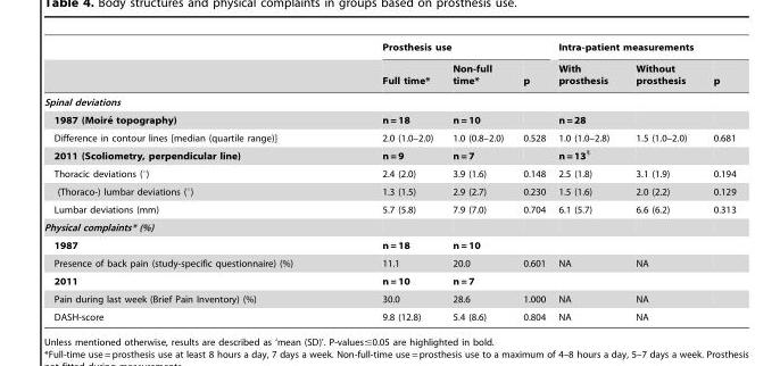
<table><thead><tr><td rowspan="2"></td><td colspan="3">Prosthesis use</td><td colspan="3">Intra-patient measurements</td></tr><tr><td>Full time*</td><td>Non-full time*</td><td>p</td><td>With prosthesis</td><td>Without prosthesis</td><td>p</td></tr></thead><tbody><tr><td colspan="7">Spinal deviations</td></tr><tr><td>1987 (Moire´ topography)</td><td>n = 18</td><td>n = 10</td><td></td><td>n = 28</td><td></td><td></td></tr><tr><td>Difference in contour lines [median (quartile range)]</td><td>2.0 (1.0–2.0)</td><td>1.0 (0.8–2.0)</td><td>0.528</td><td>1.0 (1.0–2.8)</td><td>1.5 (1.0–2.0)</td><td>0.681</td></tr><tr><td>2011 (Scoliometry, perpendicular line)</td><td>n = 9</td><td>n = 7</td><td></td><td>n = 13§</td><td></td><td></td></tr><tr><td>Thoracic deviations (°)</td><td>2.4 (2.0)</td><td>3.9 (1.6)</td><td>0.148</td><td>2.5 (1.8)</td><td>3.1 (1.9)</td><td>0.194</td></tr><tr><td>(Thoraco-) lumbar deviations (°)</td><td>1.3 (1.5)</td><td>2.9 (2.7)</td><td>0.230</td><td>1.5 (1.6)</td><td>2.0 (2.2)</td><td>0.129</td></tr><tr><td>Lumbar deviations (mm)</td><td>5.7 (5.8)</td><td>7.9 (7.0)</td><td>0.704</td><td>6.1 (5.7)</td><td>6.6 (6.2)</td><td>0.313</td></tr><tr><td colspan="7">Physical complaints* (%)</td></tr><tr><td>1987</td><td>n = 18</td><td>n = 10</td><td></td><td></td><td></td><td></td></tr><tr><td>Presence of back pain (study-specific questionnaire) (%)</td><td>11.1</td><td>20.0</td><td>0.601</td><td>NA</td><td>NA</td><td></td></tr><tr><td>2011</td><td>n = 10</td><td>n = 7</td><td></td><td></td><td></td><td></td></tr><tr><td>Pain during last week (Brief Pain Inventory) (%)</td><td>30.0</td><td>28.6</td><td>1.000</td><td>NA</td><td>NA</td><td></td></tr><tr><td>DASH-score</td><td>9.8 (12.8)</td><td>5.4 (8.6)</td><td>0.804</td><td>NA</td><td>NA</td><td></td></tr></tbody></table>